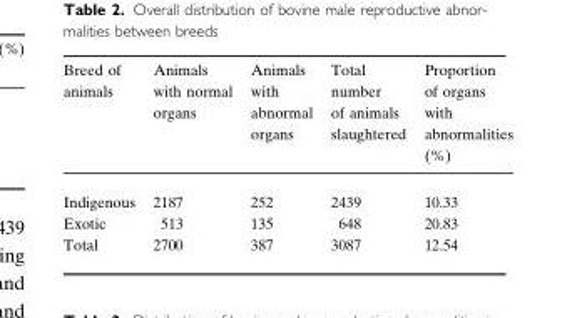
<table><thead><tr><td>Breed of animals</td><td>Animals with normal organs</td><td>Animals with abnormal organs</td><td>Total number of animals slaughtered</td><td>Proportion of organs with abnormalities (%)</td></tr></thead><tbody><tr><td>Indigenous</td><td>2187</td><td>252</td><td>2439</td><td>10.33</td></tr><tr><td>Exotic</td><td>513</td><td>135</td><td>648</td><td>20.83</td></tr><tr><td>Total</td><td>2700</td><td>387</td><td>3087</td><td>12.54</td></tr></tbody></table>